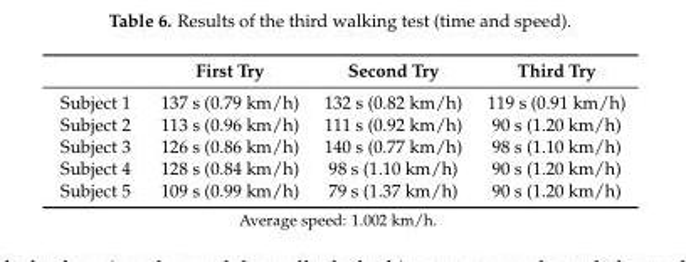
<table><thead><tr><td></td><td>First Try</td><td>Second Try</td><td>Third Try</td></tr></thead><tbody><tr><td>Subject 1</td><td>137 s (0.79 km/h)</td><td>132 s (0.82 km/h)</td><td>119 s (0.91 km/h)</td></tr><tr><td>Subject 2</td><td>113 s (0.96 km/h)</td><td>111 s (0.92 km/h)</td><td>90 s (1.20 km/h)</td></tr><tr><td>Subject 3</td><td>126 s (0.86 km/h)</td><td>140 s (0.77 km/h)</td><td>98 s (1.10 km/h)</td></tr><tr><td>Subject 4</td><td>128 s (0.84 km/h)</td><td>98 s (1.10 km/h)</td><td>90 s (1.20 km/h)</td></tr><tr><td>Subject 5</td><td>109 s (0.99 km/h)</td><td>79 s (1.37 km/h)</td><td>90 s (1.20 km/h)</td></tr></tbody></table>